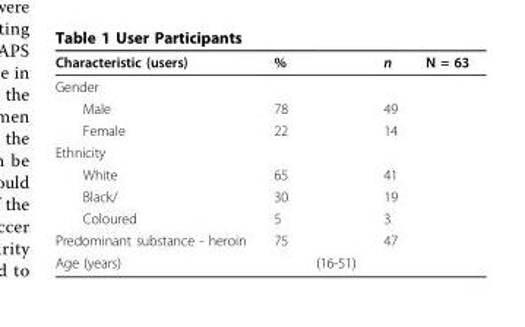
<table><thead><tr><td>Characteristic (users)</td><td>%</td><td></td><td>n</td><td>N = 63</td></tr></thead><tbody><tr><td colspan="5">Gender</td></tr><tr><td>Male</td><td>78</td><td></td><td>49</td><td></td></tr><tr><td>Female</td><td>22</td><td></td><td>14</td><td></td></tr><tr><td colspan="5">Ethnicity</td></tr><tr><td>White</td><td>65</td><td></td><td>41</td><td></td></tr><tr><td>Black/</td><td>30</td><td></td><td>19</td><td></td></tr><tr><td>Coloured</td><td>5</td><td></td><td>3</td><td></td></tr><tr><td>Predominant substance - heroin</td><td>75</td><td></td><td>47</td><td></td></tr><tr><td>Age (years)</td><td></td><td>(16-51)</td><td></td><td></td></tr></tbody></table>